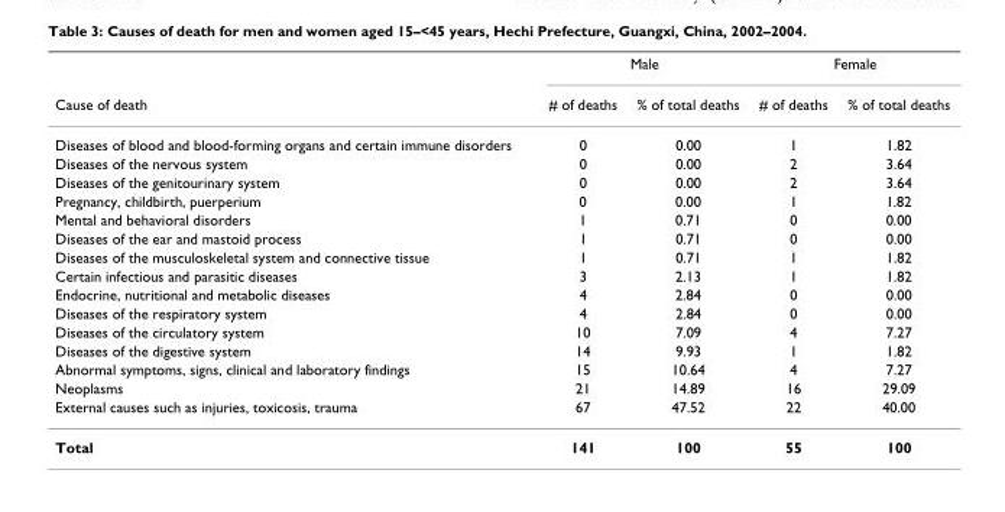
<table><thead><tr><td rowspan="2">Cause of death</td><td colspan="2">Male</td><td colspan="2">Female</td></tr><tr><td># of deaths</td><td>% of total deaths</td><td># of deaths</td><td>% of total deaths</td></tr></thead><tbody><tr><td>Diseases of blood and blood-forming organs and certain immune disorders</td><td>0</td><td>0.00</td><td>1</td><td>1.82</td></tr><tr><td>Diseases of the nervous system</td><td>0</td><td>0.00</td><td>2</td><td>3.64</td></tr><tr><td>Diseases of the genitourinary system</td><td>0</td><td>0.00</td><td>2</td><td>3.64</td></tr><tr><td>Pregnancy, childbirth, puerperium</td><td>0</td><td>0.00</td><td>1</td><td>1.82</td></tr><tr><td>Mental and behavioral disorders</td><td>1</td><td>0.71</td><td>0</td><td>0.00</td></tr><tr><td>Diseases of the ear and mastoid process</td><td>1</td><td>0.71</td><td>0</td><td>0.00</td></tr><tr><td>Diseases of the musculoskeletal system and connective tissue</td><td>1</td><td>0.71</td><td>1</td><td>1.82</td></tr><tr><td>Certain infectious and parasitic diseases</td><td>3</td><td>2.13</td><td>1</td><td>1.82</td></tr><tr><td>Endocrine, nutritional and metabolic diseases</td><td>4</td><td>2.84</td><td>0</td><td>0.00</td></tr><tr><td>Diseases of the respiratory system</td><td>4</td><td>2.84</td><td>0</td><td>0.00</td></tr><tr><td>Diseases of the circulatory system</td><td>10</td><td>7.09</td><td>4</td><td>7.27</td></tr><tr><td>Diseases of the digestive system</td><td>14</td><td>9.93</td><td>1</td><td>1.82</td></tr><tr><td>Abnormal symptoms, signs, clinical and laboratory findings</td><td>15</td><td>10.64</td><td>4</td><td>7.27</td></tr><tr><td>Neoplasms</td><td>21</td><td>14.89</td><td>16</td><td>29.09</td></tr><tr><td>External causes such as injuries, toxicosis, trauma</td><td>67</td><td>47.52</td><td>22</td><td>40.00</td></tr><tr><td>Total</td><td>141</td><td>100</td><td>55</td><td>100</td></tr></tbody></table>